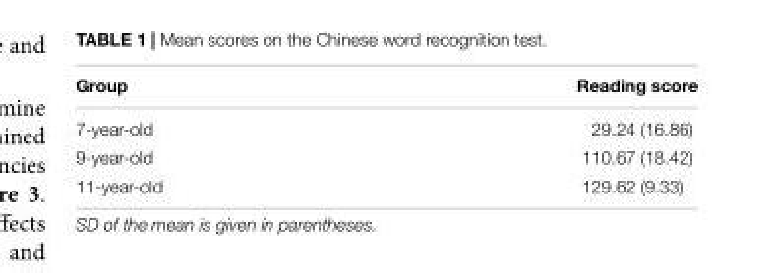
<table><thead><tr><td>Group</td><td>Reading score</td></tr></thead><tbody><tr><td>7-year-old</td><td>29.24 (16.86)</td></tr><tr><td>9-year-old</td><td>110.67 (18.42)</td></tr><tr><td>11-year-old</td><td>129.62 (9.33)</td></tr></tbody></table>